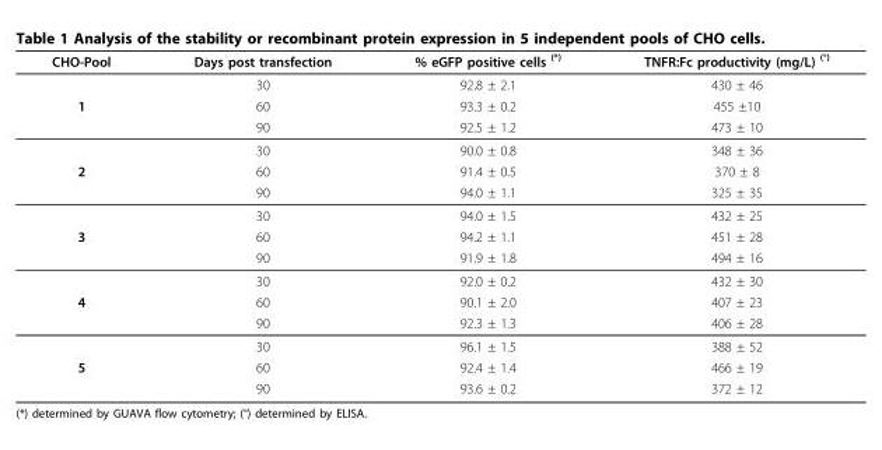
<table><thead><tr><td>CHO-Pool</td><td>Days post transfection</td><td>% eGFP positive cells <sup>(*)</sup></td><td>TNFR:Fc productivity (mg/L) <sup>(°)</sup></td></tr></thead><tbody><tr><td></td><td>30</td><td>92.8 ± 2.1</td><td>430 ± 46</td></tr><tr><td rowspan="3">1</td><td>60</td><td>93.3 ± 0.2</td><td>455 ±10</td></tr><tr><td>90</td><td>92.5 ± 1.2</td><td>473 ± 10</td></tr><tr><td>30</td><td>90.0 ± 0.8</td><td>348 ± 36</td></tr><tr><td rowspan="3">2</td><td>60</td><td>91.4 ± 0.5</td><td>370 ± 8</td></tr><tr><td>90</td><td>94.0 ± 1.1</td><td>325 ± 35</td></tr><tr><td>30</td><td>94.0 ± 1.5</td><td>432 ± 25</td></tr><tr><td rowspan="3">3</td><td>60</td><td>94.2 ± 1.1</td><td>451 ± 28</td></tr><tr><td>90</td><td>91.9 ± 1.8</td><td>494 ± 16</td></tr><tr><td>30</td><td>92.0 ± 0.2</td><td>432 ± 30</td></tr><tr><td rowspan="3">4</td><td>60</td><td>90.1 ± 2.0</td><td>407 ± 23</td></tr><tr><td>90</td><td>92.3 ± 1.3</td><td>406 ± 28</td></tr><tr><td>30</td><td>96.1 ± 1.5</td><td>388 ± 52</td></tr><tr><td rowspan="2">5</td><td>60</td><td>92.4 ± 1.4</td><td>466 ± 19</td></tr><tr><td>90</td><td>93.6 ± 0.2</td><td>372 ± 12</td></tr></tbody></table>